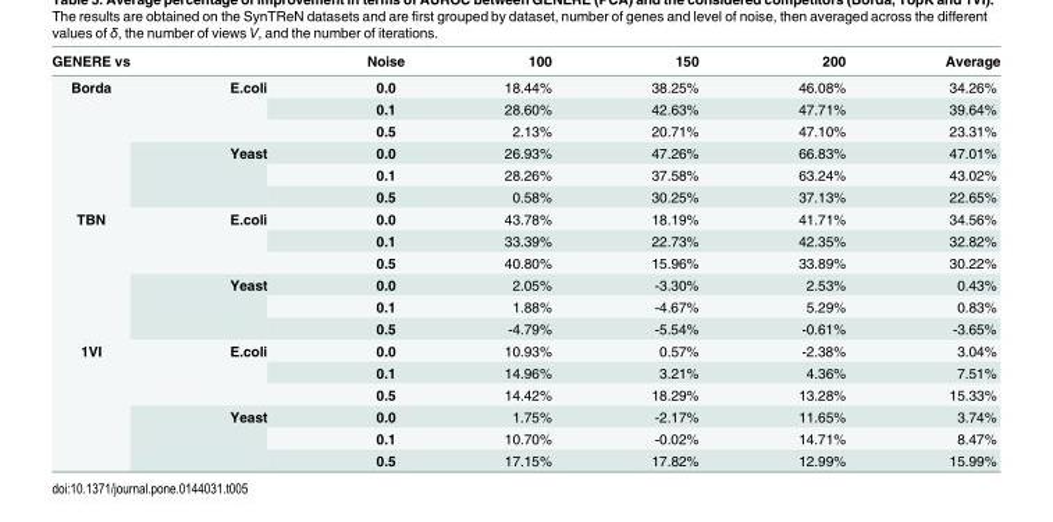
<table><thead><tr><td>GENERE vs</td><td></td><td>Noise</td><td>100</td><td>150</td><td>200</td><td>Average</td></tr></thead><tbody><tr><td rowspan="6">Borda</td><td rowspan="3">E.coli</td><td>0.0</td><td>18.44%</td><td>38.25%</td><td>46.08%</td><td>34.26%</td></tr><tr><td>0.1</td><td>28.60%</td><td>42.63%</td><td>47.71%</td><td>39.64%</td></tr><tr><td>0.5</td><td>2.13%</td><td>20.71%</td><td>47.10%</td><td>23.31%</td></tr><tr><td rowspan="3">Yeast</td><td>0.0</td><td>26.93%</td><td>47.26%</td><td>66.83%</td><td>47.01%</td></tr><tr><td>0.1</td><td>28.26%</td><td>37.58%</td><td>63.24%</td><td>43.02%</td></tr><tr><td>0.5</td><td>0.58%</td><td>30.25%</td><td>37.13%</td><td>22.65%</td></tr><tr><td rowspan="6">TBN</td><td rowspan="3">E.coli</td><td>0.0</td><td>43.78%</td><td>18.19%</td><td>41.71%</td><td>34.56%</td></tr><tr><td>0.1</td><td>33.39%</td><td>22.73%</td><td>42.35%</td><td>32.82%</td></tr><tr><td>0.5</td><td>40.80%</td><td>15.96%</td><td>33.89%</td><td>30.22%</td></tr><tr><td rowspan="3">Yeast</td><td>0.0</td><td>2.05%</td><td>-3.30%</td><td>2.53%</td><td>0.43%</td></tr><tr><td>0.1</td><td>1.88%</td><td>-4.67%</td><td>5.29%</td><td>0.83%</td></tr><tr><td>0.5</td><td>-4.79%</td><td>-5.54%</td><td>-0.61%</td><td>-3.65%</td></tr><tr><td rowspan="6">1VI</td><td rowspan="3">E.coli</td><td>0.0</td><td>10.93%</td><td>0.57%</td><td>-2.38%</td><td>3.04%</td></tr><tr><td>0.1</td><td>14.96%</td><td>3.21%</td><td>4.36%</td><td>7.51%</td></tr><tr><td>0.5</td><td>14.42%</td><td>18.29%</td><td>13.28%</td><td>15.33%</td></tr><tr><td rowspan="3">Yeast</td><td>0.0</td><td>1.75%</td><td>-2.17%</td><td>11.65%</td><td>3.74%</td></tr><tr><td>0.1</td><td>10.70%</td><td>-0.02%</td><td>14.71%</td><td>8.47%</td></tr><tr><td>0.5</td><td>17.15%</td><td>17.82%</td><td>12.99%</td><td>15.99%</td></tr></tbody></table>